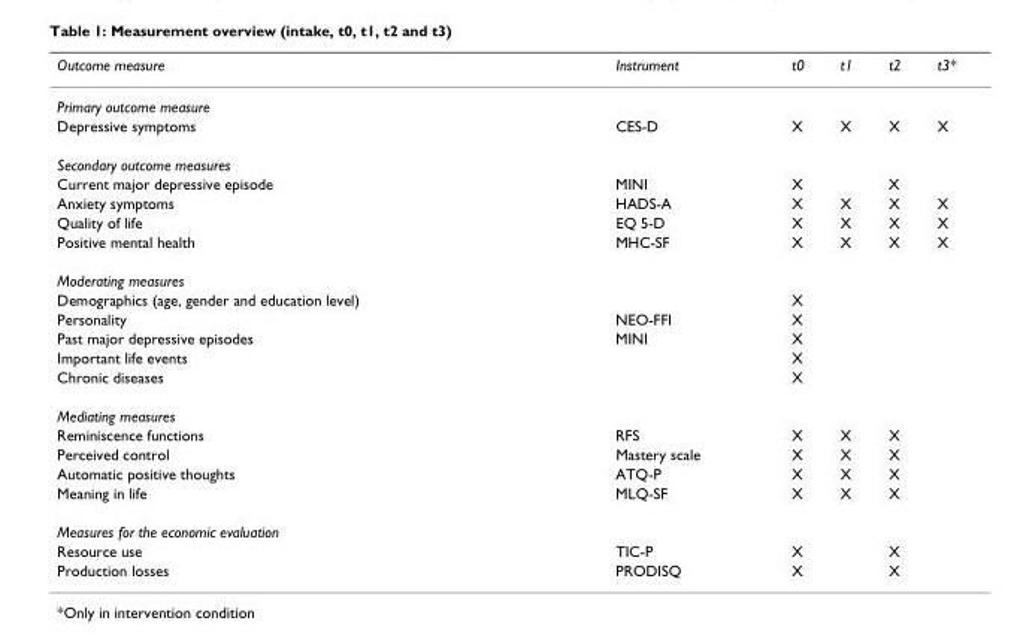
<table><thead><tr><td>Outcome measure</td><td>Instrument</td><td>t0</td><td>t1</td><td>t2</td><td>t3*</td></tr></thead><tbody><tr><td colspan="6">Primary outcome measure</td></tr><tr><td>Depressive symptoms</td><td>CES-D</td><td>X</td><td>X</td><td>X</td><td>X</td></tr><tr><td colspan="6">Secondary outcome measures</td></tr><tr><td>Current major depressive episode</td><td>MINI</td><td>X</td><td></td><td>X</td><td></td></tr><tr><td>Anxiety symptoms</td><td>HADS-A</td><td>X</td><td>X</td><td>X</td><td>X</td></tr><tr><td>Quality of life</td><td>EQ 5-D</td><td>X</td><td>X</td><td>X</td><td>X</td></tr><tr><td>Positive mental health</td><td>MHC-SF</td><td>X</td><td>X</td><td>X</td><td>X</td></tr><tr><td colspan="6">Moderating measures</td></tr><tr><td>Demographics (age, gender and education level)</td><td></td><td>X</td><td></td><td></td><td></td></tr><tr><td>Personality</td><td>NEO-FFI</td><td>X</td><td></td><td></td><td></td></tr><tr><td>Past major depressive episodes</td><td>MINI</td><td>X</td><td></td><td></td><td></td></tr><tr><td>Important life events</td><td></td><td>X</td><td></td><td></td><td></td></tr><tr><td>Chronic diseases</td><td></td><td>X</td><td></td><td></td><td></td></tr><tr><td colspan="6">Mediating measures</td></tr><tr><td>Reminiscence functions</td><td>RFS</td><td>X</td><td>X</td><td>X</td><td></td></tr><tr><td>Perceived control</td><td>Mastery scale</td><td>X</td><td>X</td><td>X</td><td></td></tr><tr><td>Automatic positive thoughts</td><td>ATQ-P</td><td>X</td><td>X</td><td>X</td><td></td></tr><tr><td>Meaning in life</td><td>MLQ-SF</td><td>X</td><td>X</td><td>X</td><td></td></tr><tr><td colspan="6">Measures for the economic evaluation</td></tr><tr><td>Resource use</td><td>TIC-P</td><td>X</td><td></td><td>X</td><td></td></tr><tr><td>Production losses</td><td>PRODISQ</td><td>X</td><td></td><td>X</td><td></td></tr></tbody></table>